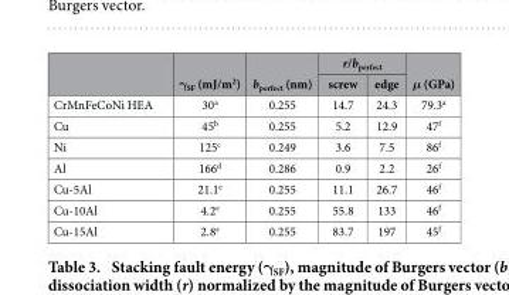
<table><thead><tr><td rowspan="2"></td><td rowspan="2">γ<sub>SF</sub> (mJ/m<sup>2</sup>)</td><td rowspan="2">b<sub>perfect</sub> (nm)</td><td colspan="2">r/b<sub>perfect</sub></td><td rowspan="2">μ (GPa)</td></tr><tr><td>screw</td><td>edge</td></tr></thead><tbody><tr><td>CrMnFeCoNi HEA</td><td>30<sup>a</sup></td><td>0.255</td><td>14.7</td><td>24.3</td><td>79.3<sup>a</sup></td></tr><tr><td>Cu</td><td>45<sup>b</sup></td><td>0.255</td><td>5.2</td><td>12.9</td><td>47<sup>f</sup></td></tr><tr><td>Ni</td><td>125<sup>c</sup></td><td>0.249</td><td>3.6</td><td>7.5</td><td>86<sup>f</sup></td></tr><tr><td>Al</td><td>166<sup>d</sup></td><td>0.286</td><td>0.9</td><td>2.2</td><td>26<sup>f</sup></td></tr><tr><td>Cu-5Al</td><td>21.1<sup>e</sup></td><td>0.255</td><td>11.1</td><td>26.7</td><td>46<sup>f</sup></td></tr><tr><td>Cu-10Al</td><td>4.2<sup>e</sup></td><td>0.255</td><td>55.8</td><td>133</td><td>46<sup>f</sup></td></tr><tr><td>Cu-15Al</td><td>2.8<sup>e</sup></td><td>0.255</td><td>83.7</td><td>197</td><td>45<sup>f</sup></td></tr></tbody></table>